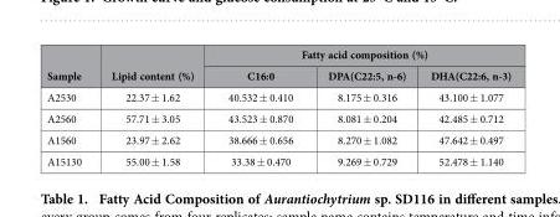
<table><thead><tr><td rowspan="2">Sample</td><td rowspan="2">Lipid content (%)</td><td colspan="3">Fatty acid composition (%)</td></tr><tr><td>C16:0</td><td>DPA(C22:5, n-6)</td><td>DHA(C22:6, n-3)</td></tr></thead><tbody><tr><td>A2530</td><td>22.37 ± 1.62</td><td>40.532 ± 0.410</td><td>8.175 ± 0.316</td><td>43.100 ± 1.077</td></tr><tr><td>A2560</td><td>57.71 ± 3.05</td><td>43.523 ± 0.870</td><td>8.081 ± 0.204</td><td>42.485 ± 0.712</td></tr><tr><td>A1560</td><td>23.97 ± 2.62</td><td>38.666 ± 0.656</td><td>8.270 ± 1.082</td><td>47.642 ± 0.497</td></tr><tr><td>A15130</td><td>55.00 ± 1.58</td><td>33.38 ± 0.470</td><td>9.269 ± 0.729</td><td>52.478 ± 1.140</td></tr></tbody></table>